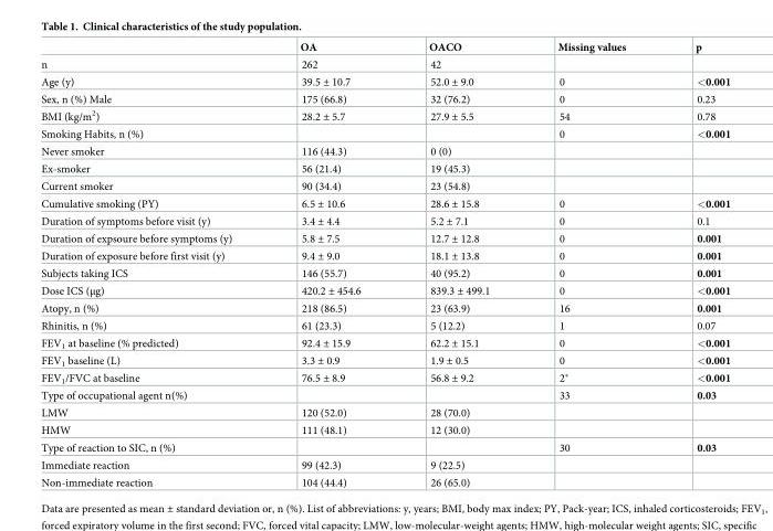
<table><thead><tr><td></td><td>OA</td><td>OACO</td><td>Missing values</td><td>p</td></tr></thead><tbody><tr><td>n</td><td>262</td><td>42</td><td></td><td></td></tr><tr><td>Age (y)</td><td>39.5 ± 10.7</td><td>52.0 ± 9.0</td><td>0</td><td>&lt;0.001</td></tr><tr><td>Sex, n (%) Male</td><td>175 (66.8)</td><td>32 (76.2)</td><td>0</td><td>0.23</td></tr><tr><td>BMI (kg/m<sup>2</sup>)</td><td>28.2 ± 5.7</td><td>27.9 ± 5.5</td><td>54</td><td>0.78</td></tr><tr><td>Smoking Habits, n (%)</td><td></td><td></td><td>0</td><td>&lt;0.001</td></tr><tr><td>Never smoker</td><td>116 (44.3)</td><td>0 (0)</td><td></td><td></td></tr><tr><td>Ex-smoker</td><td>56 (21.4)</td><td>19 (45.3)</td><td></td><td></td></tr><tr><td>Current smoker</td><td>90 (34.4)</td><td>23 (54.8)</td><td></td><td></td></tr><tr><td>Cumulative smoking (PY)</td><td>6.5 ± 10.6</td><td>28.6 ± 15.8</td><td>0</td><td>&lt;0.001</td></tr><tr><td>Duration of symptoms before visit (y)</td><td>3.4 ± 4.4</td><td>5.2 ± 7.1</td><td>0</td><td>0.1</td></tr><tr><td>Duration of expsoure before symptoms (y)</td><td>5.8 ± 7.5</td><td>12.7 ± 12.8</td><td>0</td><td>0.001</td></tr><tr><td>Duration of exposure before first visit (y)</td><td>9.4 ± 9.0</td><td>18.1 ± 13.8</td><td>0</td><td>0.001</td></tr><tr><td>Subjects taking ICS</td><td>146 (55.7)</td><td>40 (95.2)</td><td>0</td><td>0.001</td></tr><tr><td>Dose ICS (μg)</td><td>420.2 ± 454.6</td><td>839.3 ± 499.1</td><td>0</td><td>&lt;0.001</td></tr><tr><td>Atopy, n (%)</td><td>218 (86.5)</td><td>23 (63.9)</td><td>16</td><td>0.001</td></tr><tr><td>Rhinitis, n (%)</td><td>61 (23.3)</td><td>5 (12.2)</td><td>1</td><td>0.07</td></tr><tr><td>FEV<sub>1</sub> at baseline (% predicted)</td><td>92.4 ± 15.9</td><td>62.2 ± 15.1</td><td>0</td><td>&lt;0.001</td></tr><tr><td>FEV<sub>1</sub> baseline (L)</td><td>3.3 ± 0.9</td><td>1.9 ± 0.5</td><td>0</td><td>&lt;0.001</td></tr><tr><td>FEV<sub>1</sub>/FVC at baseline</td><td>76.5 ± 8.9</td><td>56.8 ± 9.2</td><td>2*</td><td>&lt;0.001</td></tr><tr><td>Type of occupational agent n(%)</td><td></td><td></td><td>33</td><td>0.03</td></tr><tr><td>LMW</td><td>120 (52.0)</td><td>28 (70.0)</td><td></td><td></td></tr><tr><td>HMW</td><td>111 (48.1)</td><td>12 (30.0)</td><td></td><td></td></tr><tr><td>Type of reaction to SIC, n (%)</td><td></td><td></td><td>30</td><td>0.03</td></tr><tr><td>Immediate reaction</td><td>99 (42.3)</td><td>9 (22.5)</td><td></td><td></td></tr><tr><td>Non-immediate reaction</td><td>104 (44.4)</td><td>26 (65.0)</td><td></td><td></td></tr></tbody></table>